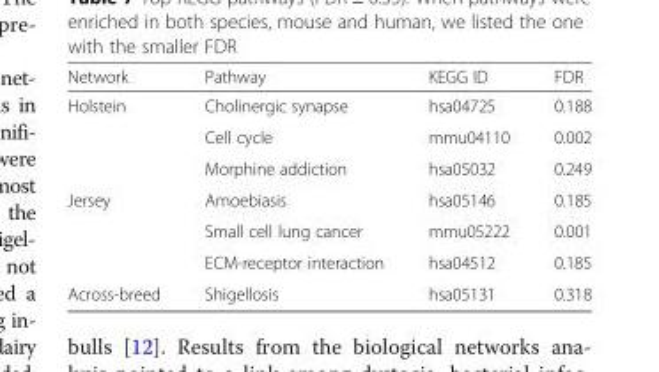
<table><thead><tr><td>Network</td><td>Pathway</td><td>KEGG ID</td><td>FDR</td></tr></thead><tbody><tr><td rowspan="3">Holstein</td><td>Cholinergic synapse</td><td>hsa04725</td><td>0.188</td></tr><tr><td>Cell cycle</td><td>mmu04110</td><td>0.002</td></tr><tr><td>Morphine addiction</td><td>hsa05032</td><td>0.249</td></tr><tr><td rowspan="3">Jersey</td><td>Amoebiasis</td><td>hsa05146</td><td>0.185</td></tr><tr><td>Small cell lung cancer</td><td>mmu05222</td><td>0.001</td></tr><tr><td>ECM-receptor interaction</td><td>hsa04512</td><td>0.185</td></tr><tr><td>Across-breed</td><td>Shigellosis</td><td>hsa05131</td><td>0.318</td></tr></tbody></table>